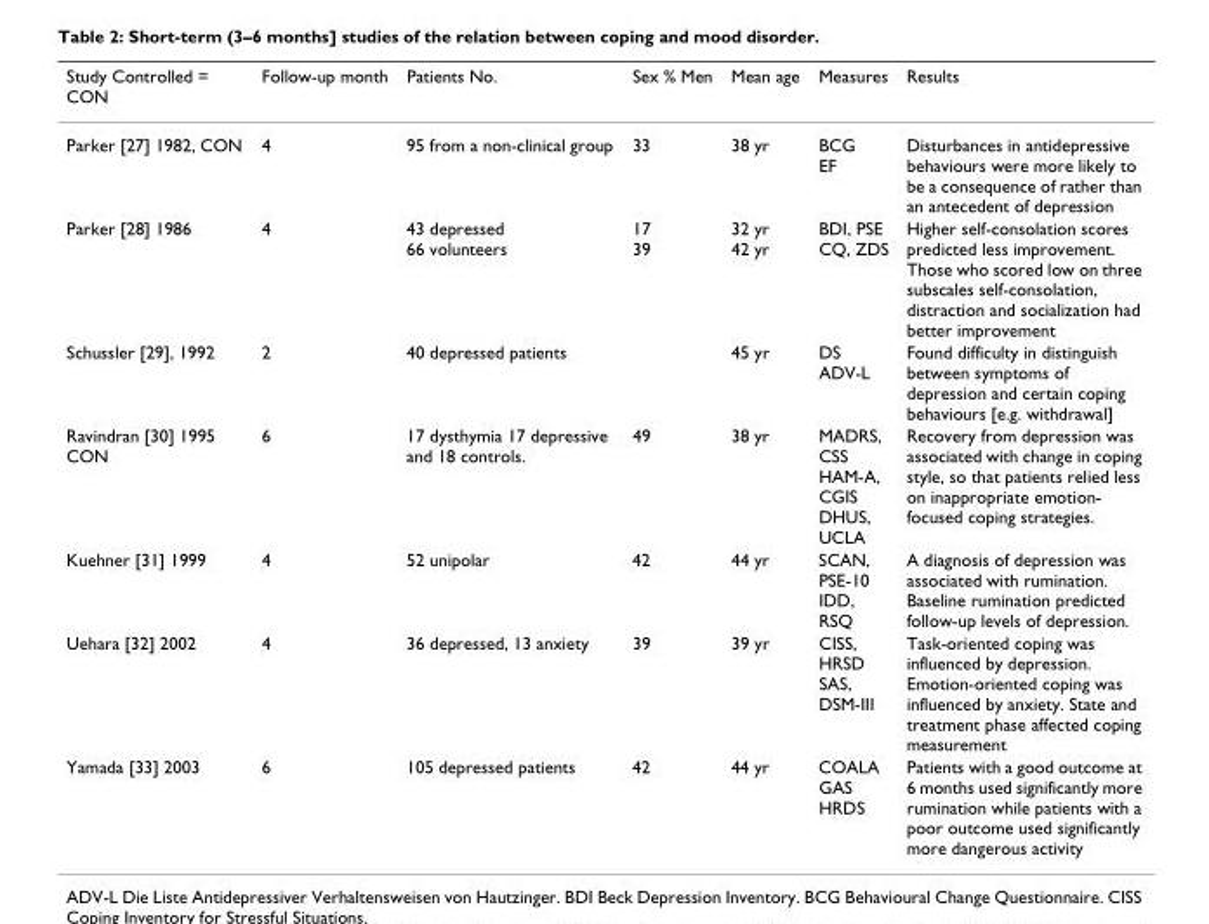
<table><thead><tr><td>Study Controlled = CON</td><td>Follow-up month</td><td>Patients No.</td><td>Sex % Men</td><td>Mean age</td><td>Measures</td><td>Results</td></tr></thead><tbody><tr><td>Parker [27] 1982, CON</td><td>4</td><td>95 from a non-clinical group</td><td>33</td><td>38 yr</td><td>BCG EF</td><td>Disturbances in antidepressive behaviours were more likely to be a consequence of rather than an antecedent of depression</td></tr><tr><td>Parker [28] 1986</td><td>4</td><td>43 depressed 66 volunteers</td><td>17 39</td><td>32 yr 42 yr</td><td>BDI, PSE CQ, ZDS</td><td>Higher self-consolation scores predicted less improvement. Those who scored low on three subscales self-consolation, distraction and socialization had better improvement</td></tr><tr><td>Schussler [29], 1992</td><td>2</td><td>40 depressed patients</td><td></td><td>45 yr</td><td>DS ADV-L</td><td>Found difficulty in distinguish between symptoms of depression and certain coping behaviours [e.g. withdrawal]</td></tr><tr><td>Ravindran [30] 1995 CON</td><td>6</td><td>17 dysthymia 17 depressive and 18 controls.</td><td>49</td><td>38 yr</td><td>MADRS, CSS HAM-A, CGIS DHUS, UCLA</td><td>Recovery from depression was associated with change in coping style, so that patients relied less on inappropriate emotion- focused coping strategies.</td></tr><tr><td>Kuehner [31] 1999</td><td>4</td><td>52 unipolar</td><td>42</td><td>44 yr</td><td>SCAN, PSE-10 IDD, RSQ</td><td>A diagnosis of depression was associated with rumination. Baseline rumination predicted follow-up levels of depression.</td></tr><tr><td>Uehara [32] 2002</td><td>4</td><td>36 depressed, 13 anxiety</td><td>39</td><td>39 yr</td><td>CISS, HRSD SAS, DSM-III</td><td>Task-oriented coping was influenced by depression. Emotion-oriented coping was influenced by anxiety. State and treatment phase affected coping measurement</td></tr><tr><td>Yamada [33] 2003</td><td>6</td><td>105 depressed patients</td><td>42</td><td>44 yr</td><td>COALA GAS HRDS</td><td>Patients with a good outcome at 6 months used significantly more rumination while patients with a poor outcome used significantly more dangerous activity</td></tr></tbody></table>